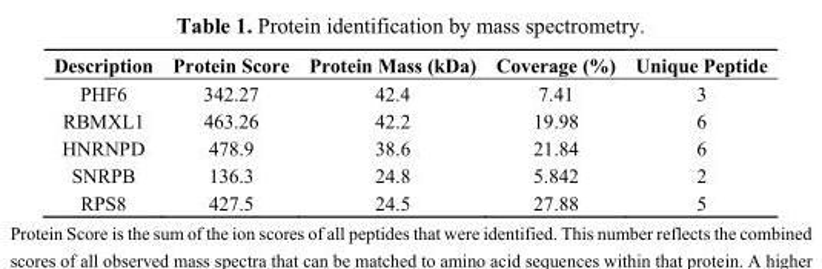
<table><thead><tr><td>Description</td><td>Protein Score</td><td>Protein Mass (kDa)</td><td>Coverage (%)</td><td>Unique Peptide</td></tr></thead><tbody><tr><td>PHF6</td><td>342.27</td><td>42.4</td><td>7.41</td><td>3</td></tr><tr><td>RBMXL1</td><td>463.26</td><td>42.2</td><td>19.98</td><td>6</td></tr><tr><td>HNRNPD</td><td>478.9</td><td>38.6</td><td>21.84</td><td>6</td></tr><tr><td>SNRPB</td><td>136.3</td><td>24.8</td><td>5.842</td><td>2</td></tr><tr><td>RPS8</td><td>427.5</td><td>24.5</td><td>27.88</td><td>5</td></tr></tbody></table>